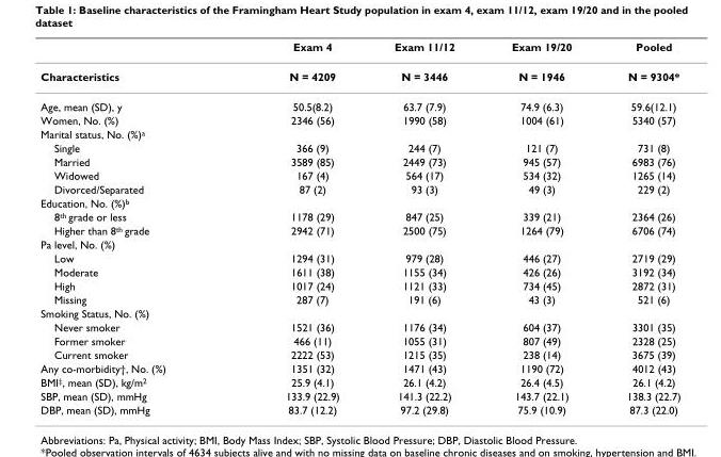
<table><thead><tr><td></td><td>Exam 4</td><td>Exam 11/12</td><td>Exam 19/20</td><td>Pooled</td></tr></thead><tbody><tr><td>Characteristics</td><td>N = 4209</td><td>N = 3446</td><td>N = 1946</td><td>N = 9304*</td></tr><tr><td>Age, mean (SD), y</td><td>50.5(8.2)</td><td>63.7 (7.9)</td><td>74.9 (6.3)</td><td>59.6(12.1)</td></tr><tr><td>Women, No. (%)</td><td>2346 (56)</td><td>1990 (58)</td><td>1004 (61)</td><td>5340 (57)</td></tr><tr><td colspan="5">Marital status, No. (%)<sup>a</sup></td></tr><tr><td>Single</td><td>366 (9)</td><td>244 (7)</td><td>121 (7)</td><td>731 (8)</td></tr><tr><td>Married</td><td>3589 (85)</td><td>2449 (73)</td><td>945 (57)</td><td>6983 (76)</td></tr><tr><td>Widowed</td><td>167 (4)</td><td>564 (17)</td><td>534 (32)</td><td>1265 (14)</td></tr><tr><td>Divorced/Separated</td><td>87 (2)</td><td>93 (3)</td><td>49 (3)</td><td>229 (2)</td></tr><tr><td colspan="5">Education, No. (%)<sup>b</sup></td></tr><tr><td>8<sup>th</sup> grade or less</td><td>1178 (29)</td><td>847 (25)</td><td>339 (21)</td><td>2364 (26)</td></tr><tr><td>Higher than 8<sup>th</sup> grade</td><td>2942 (71)</td><td>2500 (75)</td><td>1264 (79)</td><td>6706 (74)</td></tr><tr><td colspan="5">Pa level, No. (%)</td></tr><tr><td>Low</td><td>1294 (31)</td><td>979 (28)</td><td>446 (27)</td><td>2719 (29)</td></tr><tr><td>Moderate</td><td>1611 (38)</td><td>1155 (34)</td><td>426 (26)</td><td>3192 (34)</td></tr><tr><td>High</td><td>1017 (24)</td><td>1121 (33)</td><td>734 (45)</td><td>2872 (31)</td></tr><tr><td>Missing</td><td>287 (7)</td><td>191 (6)</td><td>43 (3)</td><td>521 (6)</td></tr><tr><td colspan="5">Smoking Status, No. (%)</td></tr><tr><td>Never smoker</td><td>1521 (36)</td><td>1176 (34)</td><td>604 (37)</td><td>3301 (35)</td></tr><tr><td>Former smoker</td><td>466 (11)</td><td>1055 (31)</td><td>807 (49)</td><td>2328 (25)</td></tr><tr><td>Current smoker</td><td>2222 (53)</td><td>1215 (35)</td><td>238 (14)</td><td>3675 (39)</td></tr><tr><td>Any co-morbidity†, No. (%)</td><td>1351 (32)</td><td>1471 (43)</td><td>1190 (72)</td><td>4012 (43)</td></tr><tr><td>BMI<sup>‡</sup>, mean (SD), kg/m<sup>2</sup></td><td>25.9 (4.1)</td><td>26.1 (4.2)</td><td>26.4 (4.5)</td><td>26.1 (4.2)</td></tr><tr><td>SBP, mean (SD), mmHg</td><td>133.9 (22.9)</td><td>141.3 (22.2)</td><td>143.7 (22.1)</td><td>138.3 (22.7)</td></tr><tr><td>DBP, mean (SD), mmHg</td><td>83.7 (12.2)</td><td>97.2 (29.8)</td><td>75.9 (10.9)</td><td>87.3 (22.0)</td></tr></tbody></table>